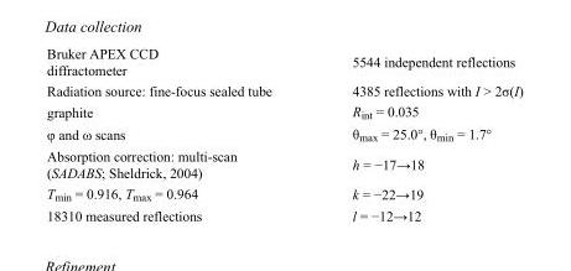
<table><tbody><tr><td>Bruker APEX CCD diffractometer</td><td>5544 independent reflections</td></tr><tr><td>Radiation source: fine-focus sealed tube</td><td>4385 reflections with I &gt; 2σ(I)</td></tr><tr><td>graphite</td><td>R<sub>int</sub> = 0.035</td></tr><tr><td>φ and ω scans</td><td>θ<sub>max</sub> = 25.0°, θ<sub>min</sub> = 1.7°</td></tr><tr><td>Absorption correction: multi-scan (SADABS; Sheldrick, 2004)</td><td>h = −17→18</td></tr><tr><td>T<sub>min</sub> = 0.916, T<sub>max</sub> = 0.964</td><td>k = −22→19</td></tr><tr><td>18310 measured reflections</td><td>l = −12→12</td></tr></tbody></table>